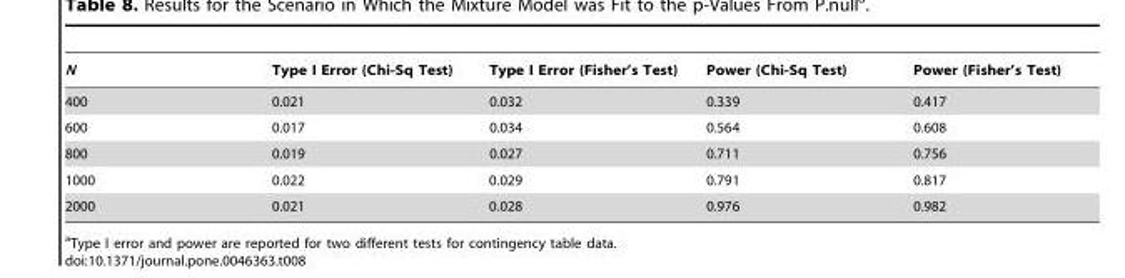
<table><thead><tr><td>N</td><td>Type I Error (Chi-Sq Test)</td><td>Type I Error (Fisher’s Test)</td><td>Power (Chi-Sq Test)</td><td>Power (Fisher’s Test)</td></tr></thead><tbody><tr><td>400</td><td>0.021</td><td>0.032</td><td>0.339</td><td>0.417</td></tr><tr><td>600</td><td>0.017</td><td>0.034</td><td>0.564</td><td>0.608</td></tr><tr><td>800</td><td>0.019</td><td>0.027</td><td>0.711</td><td>0.756</td></tr><tr><td>1000</td><td>0.022</td><td>0.029</td><td>0.791</td><td>0.817</td></tr><tr><td>2000</td><td>0.021</td><td>0.028</td><td>0.976</td><td>0.982</td></tr></tbody></table>